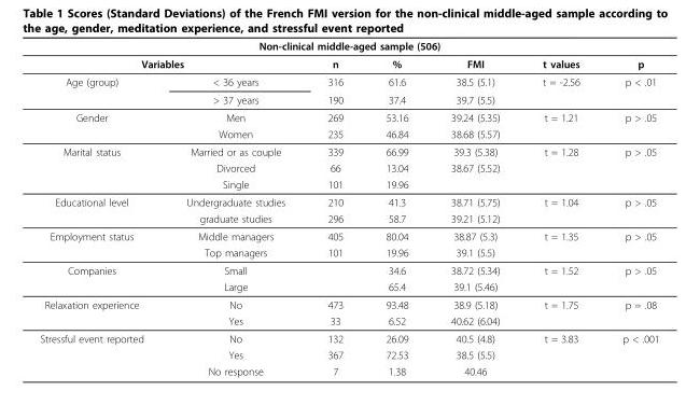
<table><thead><tr><td colspan="7">Non-clinical middle-aged sample (506)</td></tr><tr><td colspan="2">Variables</td><td rowspan="2">n 316</td><td rowspan="2">% 61.6</td><td rowspan="2">FMI 38.5 (5.1)</td><td rowspan="2">t values t = -2.56</td><td rowspan="2">p p &lt; .01</td></tr><tr><td>Age (group)</td><td>&lt; 36 years</td></tr></thead><tbody><tr><td></td><td>&gt; 37 years</td><td>190</td><td>37.4</td><td>39.7 (5.5)</td><td></td><td></td></tr><tr><td rowspan="2">Gender</td><td>Men</td><td>269</td><td>53.16</td><td>39.24 (5.35)</td><td>t = 1.21</td><td>p &gt; .05</td></tr><tr><td>Women</td><td>235</td><td>46.84</td><td>38.68 (5.57)</td><td></td><td></td></tr><tr><td rowspan="3">Marital status</td><td>Married or as couple</td><td>339</td><td>66.99</td><td>39.3 (5.38)</td><td>t = 1.28</td><td>p &gt; .05</td></tr><tr><td>Divorced</td><td>66</td><td>13.04</td><td>38.67 (5.52)</td><td></td><td></td></tr><tr><td>Single</td><td>101</td><td>19.96</td><td></td><td></td><td></td></tr><tr><td rowspan="2">Educational level</td><td>Undergraduate studies</td><td>210</td><td>41.3</td><td>38.71 (5.75)</td><td>t = 1.04</td><td>p &gt; .05</td></tr><tr><td>graduate studies</td><td>296</td><td>58.7</td><td>39.21 (5.12)</td><td></td><td></td></tr><tr><td rowspan="2">Employment status</td><td>Middle managers</td><td>405</td><td>80.04</td><td>38.87 (5.3)</td><td>t = 1.35</td><td>p &gt; .05</td></tr><tr><td>Top managers</td><td>101</td><td>19.96</td><td>39.1 (5.5)</td><td></td><td></td></tr><tr><td rowspan="2">Companies</td><td>Small</td><td></td><td>34.6</td><td>38.72 (5.34)</td><td>t = 1.52</td><td>p &gt; .05</td></tr><tr><td>Large</td><td></td><td>65.4</td><td>39.1 (5.46)</td><td></td><td></td></tr><tr><td rowspan="2">Relaxation experience</td><td>No</td><td>473</td><td>93.48</td><td>38.9 (5.18)</td><td>t = 1.75</td><td>p = .08</td></tr><tr><td>Yes</td><td>33</td><td>6.52</td><td>40.62 (6.04)</td><td></td><td></td></tr><tr><td rowspan="3">Stressful event reported</td><td>No</td><td>132</td><td>26.09</td><td>40.5 (4.8)</td><td>t = 3.83</td><td>p &lt; .001</td></tr><tr><td>Yes</td><td>367</td><td>72.53</td><td>38.5 (5.5)</td><td></td><td></td></tr><tr><td>No response</td><td>7</td><td>1.38</td><td>40.46</td><td></td><td></td></tr></tbody></table>